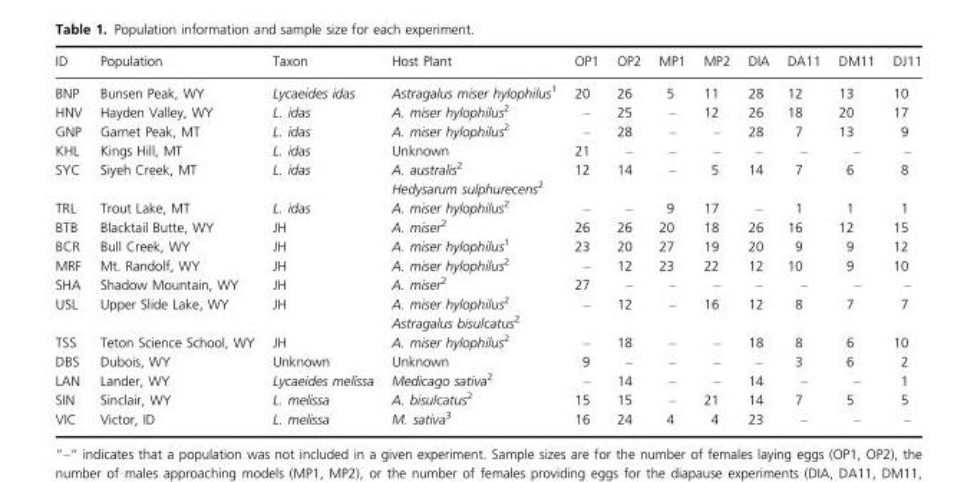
<table><thead><tr><td>ID</td><td>Population</td><td>Taxon</td><td>Host Plant</td><td>OP1</td><td>OP2</td><td>MP1</td><td>MP2</td><td>DIA</td><td>DA11</td><td>DM11</td><td>DJ11</td></tr></thead><tbody><tr><td>BNP</td><td>Bunsen Peak, WY</td><td>Lycaeides idas</td><td>Astragalus miser hylophilus<sup>1</sup></td><td>20</td><td>26</td><td>5</td><td>11</td><td>28</td><td>12</td><td>13</td><td>10</td></tr><tr><td>HNV</td><td>Hayden Valley, WY</td><td>L. idas</td><td>A. miser hylophilus<sup>2</sup></td><td>–</td><td>25</td><td>–</td><td>12</td><td>26</td><td>18</td><td>20</td><td>17</td></tr><tr><td>GNP</td><td>Garnet Peak, MT</td><td>L. idas</td><td>A. miser hylophilus<sup>2</sup></td><td>–</td><td>28</td><td>–</td><td>–</td><td>28</td><td>7</td><td>13</td><td>9</td></tr><tr><td>KHL</td><td>Kings Hill, MT</td><td>L. idas</td><td>Unknown</td><td>21</td><td>–</td><td>–</td><td>–</td><td>–</td><td>–</td><td>–</td><td>–</td></tr><tr><td rowspan="2">SYC</td><td>Siyeh Creek, MT</td><td>L. idas</td><td>A. australis<sup>2</sup></td><td>12</td><td>14</td><td>–</td><td>5</td><td>14</td><td>7</td><td>6</td><td>8</td></tr><tr><td></td><td></td><td>Hedysarum sulphurecens<sup>2</sup></td><td></td><td></td><td></td><td></td><td></td><td></td><td></td><td></td></tr><tr><td>TRL</td><td>Trout Lake, MT</td><td>L. idas</td><td>A. miser hylophilus<sup>2</sup></td><td>–</td><td>–</td><td>9</td><td>17</td><td>–</td><td>1</td><td>1</td><td>1</td></tr><tr><td>BTB</td><td>Blacktail Butte, WY</td><td>JH</td><td>A. miser<sup>2</sup></td><td>26</td><td>26</td><td>20</td><td>18</td><td>26</td><td>16</td><td>12</td><td>15</td></tr><tr><td>BCR</td><td>Bull Creek, WY</td><td>JH</td><td>A. miser hylophilus<sup>1</sup></td><td>23</td><td>20</td><td>27</td><td>19</td><td>20</td><td>9</td><td>9</td><td>12</td></tr><tr><td>MRF</td><td>Mt. Randolf, WY</td><td>JH</td><td>A. miser hylophilus<sup>2</sup></td><td>–</td><td>12</td><td>23</td><td>22</td><td>12</td><td>10</td><td>9</td><td>10</td></tr><tr><td>SHA</td><td>Shadow Mountain, WY</td><td>JH</td><td>A. miser<sup>2</sup></td><td>27</td><td>–</td><td>–</td><td>–</td><td>–</td><td>–</td><td>–</td><td>–</td></tr><tr><td rowspan="2">USL</td><td>Upper Slide Lake, WY</td><td>JH</td><td>A. miser hylophilus<sup>2</sup></td><td>–</td><td>12</td><td>–</td><td>16</td><td>12</td><td>8</td><td>7</td><td>7</td></tr><tr><td></td><td></td><td>Astragalus bisulcatus<sup>2</sup></td><td></td><td></td><td></td><td></td><td></td><td></td><td></td><td></td></tr><tr><td>TSS</td><td>Teton Science School, WY</td><td>JH</td><td>A. miser hylophilus<sup>2</sup></td><td>–</td><td>18</td><td>–</td><td>–</td><td>18</td><td>8</td><td>6</td><td>10</td></tr><tr><td>DBS</td><td>Dubois, WY</td><td>Unknown</td><td>Unknown</td><td>9</td><td>–</td><td>–</td><td>–</td><td>–</td><td>3</td><td>6</td><td>2</td></tr><tr><td>LAN</td><td>Lander, WY</td><td>Lycaeides melissa</td><td>Medicago sativa<sup>2</sup></td><td>–</td><td>14</td><td>–</td><td>–</td><td>14</td><td>–</td><td>–</td><td>1</td></tr><tr><td>SIN</td><td>Sinclair, WY</td><td>L. melissa</td><td>A. bisulcatus<sup>2</sup></td><td>15</td><td>15</td><td>–</td><td>21</td><td>14</td><td>7</td><td>5</td><td>5</td></tr><tr><td>VIC</td><td>Victor, ID</td><td>L. melissa</td><td>M. sativa<sup>3</sup></td><td>16</td><td>24</td><td>4</td><td>4</td><td>23</td><td>–</td><td>–</td><td>–</td></tr></tbody></table>